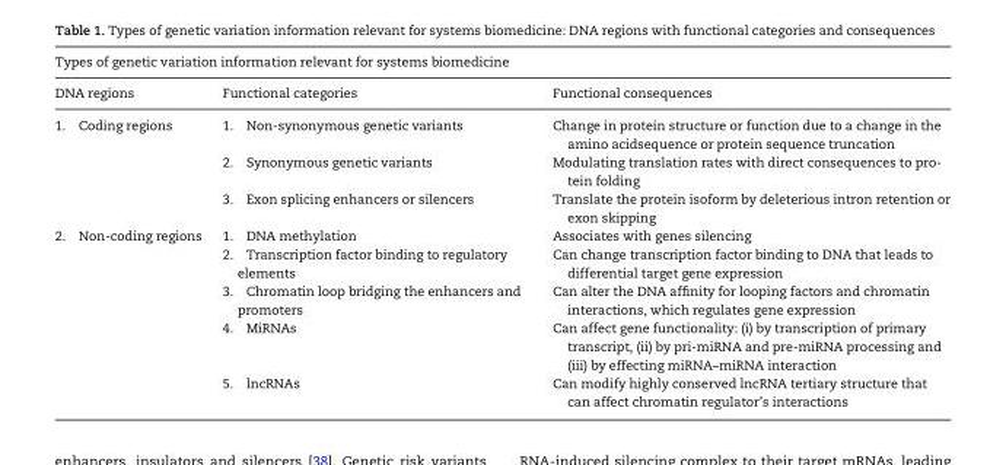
<table><thead><tr><td colspan="3">Types of genetic variation information relevant for systems biomedicine</td></tr><tr><td>DNA regions</td><td>Functional categories</td><td>Functional consequences</td></tr></thead><tbody><tr><td rowspan="3">1. Coding regions</td><td>1. Non-synonymous genetic variants</td><td>Change in protein structure or function due to a change in the amino acidsequence or protein sequence truncation</td></tr><tr><td>2. Synonymous genetic variants</td><td>Modulating translation rates with direct consequences to pro- tein folding</td></tr><tr><td>3. Exon splicing enhancers or silencers</td><td>Translate the protein isoform by deleterious intron retention or exon skipping</td></tr><tr><td rowspan="5">2. Non-coding regions</td><td>1. DNA methylation</td><td>Associates with genes silencing</td></tr><tr><td>2. Transcription factor binding to regulatory elements</td><td>Can change transcription factor binding to DNA that leads to differential target gene expression</td></tr><tr><td>3. Chromatin loop bridging the enhancers and promoters</td><td>Can alter the DNA affinity for looping factors and chromatin interactions, which regulates gene expression</td></tr><tr><td>4. MiRNAs</td><td>Can affect gene functionality: (i) by transcription of primary transcript, (ii) by pri-miRNA and pre-miRNA processing and (iii) by effecting miRNA–miRNA interaction</td></tr><tr><td>5. lncRNAs</td><td>Can modify highly conserved lncRNA tertiary structure that can affect chromatin regulator’s interactions</td></tr></tbody></table>